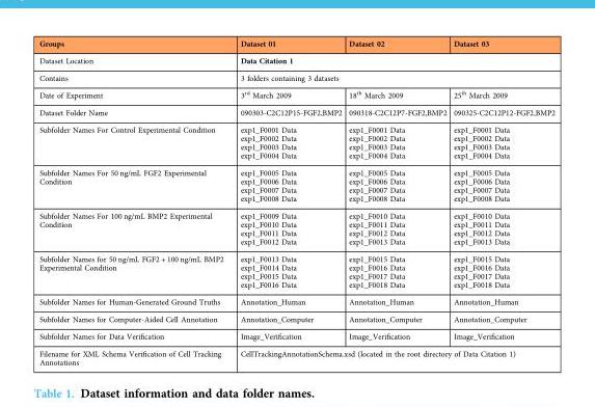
<table><thead><tr><td>Groups</td><td>Dataset 01</td><td>Dataset 02</td><td>Dataset 03</td></tr></thead><tbody><tr><td>Dataset Location</td><td colspan="3">Data Citation 1</td></tr><tr><td>Contains</td><td colspan="3">3 folders containing 3 datasets</td></tr><tr><td>Date of Experiment</td><td>3<sup>rd</sup> March 2009</td><td>18<sup>th</sup> March 2009</td><td>25<sup>th</sup> March 2009</td></tr><tr><td>Dataset Folder Name</td><td>090303-C2C12P15-FGF2,BMP2</td><td>090318-C2C12P7-FGF2,BMP2</td><td>090325-C2C12P12-FGF2,BMP2</td></tr><tr><td>Subfolder Names For Control Experimental Condition</td><td>exp1_F0001 Data exp1_F0002 Data exp1_F0003 Data exp1_F0004 Data</td><td>exp1_F0001 Data exp1_F0002 Data exp1_F0003 Data exp1_F0004 Data</td><td>exp1_F0001 Data exp1_F0002 Data exp1_F0003 Data exp1_F0004 Data</td></tr><tr><td>Subfolder Names For 50 ng/mL FGF2 Experimental Condition</td><td>exp1_F0005 Data exp1_F0006 Data exp1_F0007 Data exp1_F0008 Data</td><td>exp1_F0005 Data exp1_F0006 Data exp1_F0007 Data exp1_F0008 Data</td><td>exp1_F0005 Data exp1_F0006 Data exp1_F0007 Data exp1_F0008 Data</td></tr><tr><td>Subfolder Names For 100 ng/mL BMP2 Experimental Condition</td><td>exp1_F0009 Data exp1_F0010 Data exp1_F0011 Data exp1_F0012 Data</td><td>exp1_F0010 Data exp1_F0011 Data exp1_F0012 Data exp1_F0013 Data</td><td>exp1_F0010 Data exp1_F0011 Data exp1_F0012 Data exp1_F0013 Data</td></tr><tr><td>Subfolder Names for 50 ng/mL FGF2 + 100 ng/mL BMP2 Experimental Condition</td><td>exp1_F0013 Data exp1_F0014 Data exp1_F0015 Data exp1_F0016 Data</td><td>exp1_F0015 Data exp1_F0016 Data exp1_F0017 Data exp1_F0018 Data</td><td>exp1_F0015 Data exp1_F0016 Data exp1_F0017 Data exp1_F0018 Data</td></tr><tr><td>Subfolder Names for Human-Generated Ground Truths</td><td>Annotation_Human</td><td>Annotation_Human</td><td>Annotation_Human</td></tr><tr><td>Subfolder Names for Computer-Aided Cell Annotation</td><td>Annotation_Computer</td><td>Annotation_Computer</td><td>Annotation_Computer</td></tr><tr><td>Subfolder Names for Data Verification</td><td>Image_Verification</td><td>Image_Verification</td><td>Image_Verification</td></tr><tr><td>Filename for XML Schema Verification of Cell Tracking Annotations</td><td colspan="3">CellTrackingAnnotationSchema.xsd (located in the root directory of Data Citation 1)</td></tr></tbody></table>